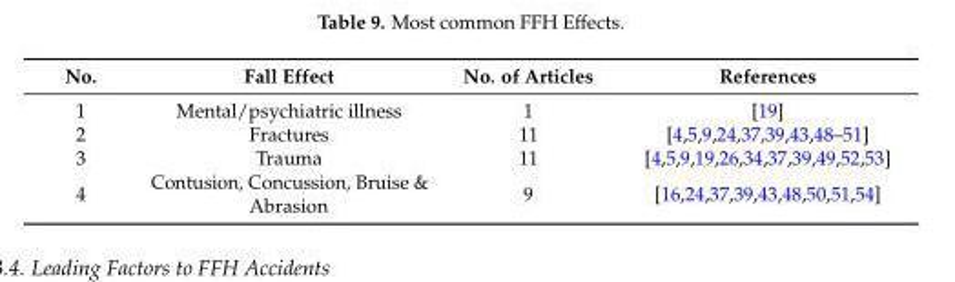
<table><thead><tr><td>No.</td><td>Fall Effect</td><td>No. of Articles</td><td>References</td></tr></thead><tbody><tr><td>1</td><td>Mental/psychiatric illness</td><td>1</td><td>[19]</td></tr><tr><td>2</td><td>Fractures</td><td>11</td><td>[4,5,9,24,37,39,43,48–51]</td></tr><tr><td>3</td><td>Trauma</td><td>11</td><td>[4,5,9,19,26,34,37,39,49,52,53]</td></tr><tr><td>4</td><td>Contusion, Concussion, Bruise &amp; Abrasion</td><td>9</td><td>[16,24,37,39,43,48,50,51,54]</td></tr></tbody></table>